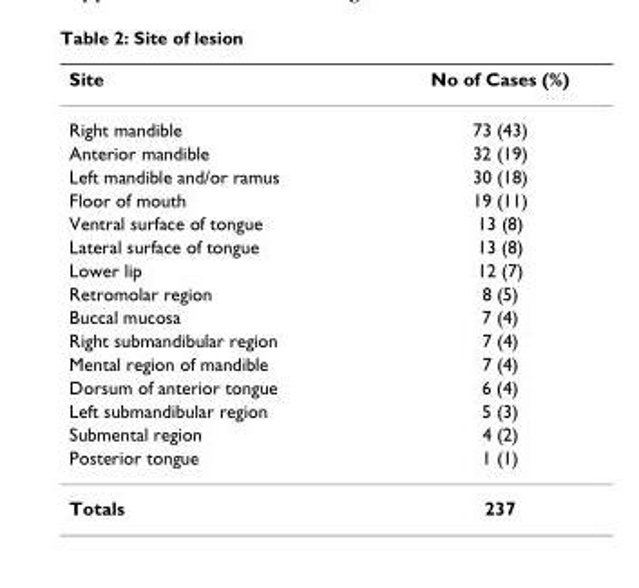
<table><thead><tr><td>Site</td><td>No of Cases (%)</td></tr></thead><tbody><tr><td>Right mandible</td><td>73 (43)</td></tr><tr><td>Anterior mandible</td><td>32 (19)</td></tr><tr><td>Left mandible and/or ramus</td><td>30 (18)</td></tr><tr><td>Floor of mouth</td><td>19 (11)</td></tr><tr><td>Ventral surface of tongue</td><td>13 (8)</td></tr><tr><td>Lateral surface of tongue</td><td>13 (8)</td></tr><tr><td>Lower lip</td><td>12 (7)</td></tr><tr><td>Retromolar region</td><td>8 (5)</td></tr><tr><td>Buccal mucosa</td><td>7 (4)</td></tr><tr><td>Right submandibular region</td><td>7 (4)</td></tr><tr><td>Mental region of mandible</td><td>7 (4)</td></tr><tr><td>Dorsum of anterior tongue</td><td>6 (4)</td></tr><tr><td>Left submandibular region</td><td>5 (3)</td></tr><tr><td>Submental region</td><td>4 (2)</td></tr><tr><td>Posterior tongue</td><td>1 (1)</td></tr><tr><td>Totals</td><td>237</td></tr></tbody></table>